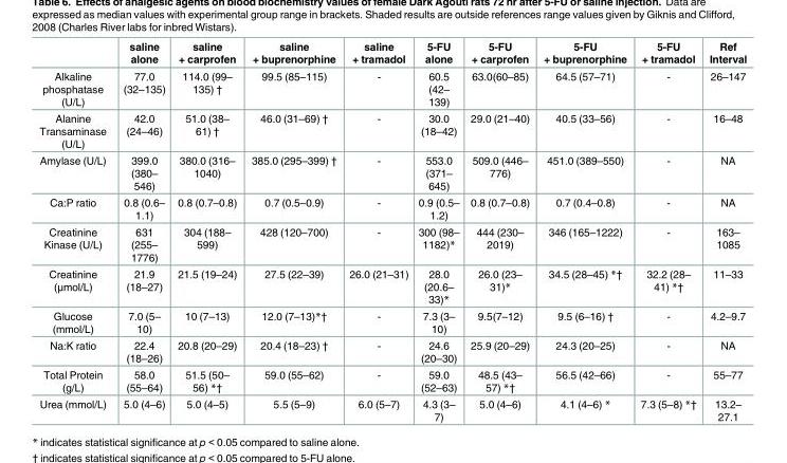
<table><thead><tr><td></td><td>saline alone</td><td>saline + carprofen</td><td>saline + buprenorphine</td><td>saline + tramadol</td><td>5-FU alone</td><td>5-FU + carprofen</td><td>5-FU + buprenorphine</td><td>5-FU + tramadol</td><td>Ref Interval</td></tr></thead><tbody><tr><td>Alkaline phosphatase (U/L)</td><td>77.0 (32–135)</td><td>114.0 (99– 135) †</td><td>99.5 (85–115)</td><td>-</td><td>60.5 (42– 139)</td><td>63.0(60–85)</td><td>64.5 (57–71)</td><td>-</td><td>26–147</td></tr><tr><td>Alanine Transaminase (U/L)</td><td>42.0 (24–46)</td><td>51.0 (38– 61) †</td><td>46.0 (31–69) †</td><td>-</td><td>30.0 (18–42)</td><td>29.0 (21–40)</td><td>40.5 (33–56)</td><td>-</td><td>16–48</td></tr><tr><td>Amylase (U/L)</td><td>399.0 (380– 546)</td><td>380.0 (316– 1040)</td><td>385.0 (295–399) †</td><td>-</td><td>553.0 (371– 645)</td><td>509.0 (446– 776)</td><td>451.0 (389–550)</td><td>-</td><td>NA</td></tr><tr><td>Ca:P ratio</td><td>0.8 (0.6– 1.1)</td><td>0.8 (0.7–0.8)</td><td>0.7 (0.5–0.9)</td><td>-</td><td>0.9 (0.5– 1.2)</td><td>0.8 (0.7–0.8)</td><td>0.7 (0.4–0.8)</td><td>-</td><td>NA</td></tr><tr><td>Creatinine Kinase (U/L)</td><td>631 (255– 1776)</td><td>304 (188– 599)</td><td>428 (120–700)</td><td>-</td><td>300 (98– 1182)*</td><td>444 (230– 2019)</td><td>346 (165–1222)</td><td>-</td><td>163– 1085</td></tr><tr><td>Creatinine (μmol/L)</td><td>21.9 (18–27)</td><td>21.5 (19–24)</td><td>27.5 (22–39)</td><td>26.0 (21–31)</td><td>28.0 (20.6– 33)*</td><td>26.0 (23– 31)*</td><td>34.5 (28–45) *†</td><td>32.2 (28– 41) *†</td><td>11–33</td></tr><tr><td>Glucose (mmol/L)</td><td>7.0 (5– 10)</td><td>10 (7–13)</td><td>12.0 (7–13)*†</td><td>-</td><td>7.3 (3– 10)</td><td>9.5(7–12)</td><td>9.5 (6–16) †</td><td>-</td><td>4.2–9.7</td></tr><tr><td>Na:K ratio</td><td>22.4 (18–26)</td><td>20.8 (20–29)</td><td>20.4 (18–23) †</td><td>-</td><td>24.6 (20–30)</td><td>25.9 (20–29)</td><td>24.3 (20–25)</td><td>-</td><td>NA</td></tr><tr><td>Total Protein (g/L)</td><td>58.0 (55–64)</td><td>51.5 (50– 56) *†</td><td>59.0 (55–62)</td><td>-</td><td>59.0 (52–63)</td><td>48.5 (43– 57) *†</td><td>56.5 (42–66)</td><td>-</td><td>55–77</td></tr><tr><td>Urea (mmol/L)</td><td>5.0 (4–6)</td><td>5.0 (4–5)</td><td>5.5 (5–9)</td><td>6.0 (5–7)</td><td>4.3 (3– 7)</td><td>5.0 (4–6)</td><td>4.1 (4–6) *</td><td>7.3 (5–8) *†</td><td>13.2– 27.1</td></tr></tbody></table>